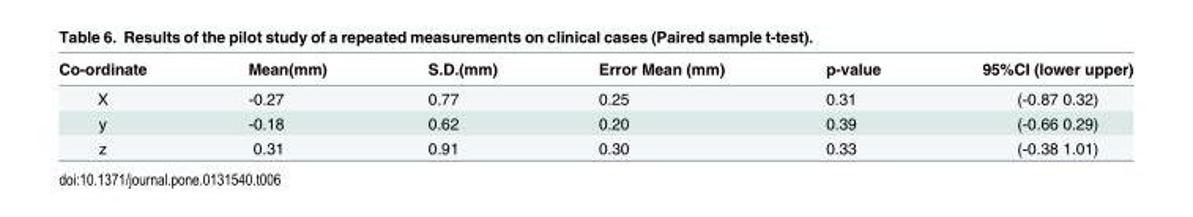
<table><thead><tr><td>Co-ordinate</td><td>Mean(mm)</td><td>S.D.(mm)</td><td>Error Mean (mm)</td><td>p-value</td><td>95%CI (lower upper)</td></tr></thead><tbody><tr><td>X</td><td>-0.27</td><td>0.77</td><td>0.25</td><td>0.31</td><td>(-0.87 0.32)</td></tr><tr><td>y</td><td>-0.18</td><td>0.62</td><td>0.20</td><td>0.39</td><td>(-0.66 0.29)</td></tr><tr><td>z</td><td>0.31</td><td>0.91</td><td>0.30</td><td>0.33</td><td>(-0.38 1.01)</td></tr></tbody></table>